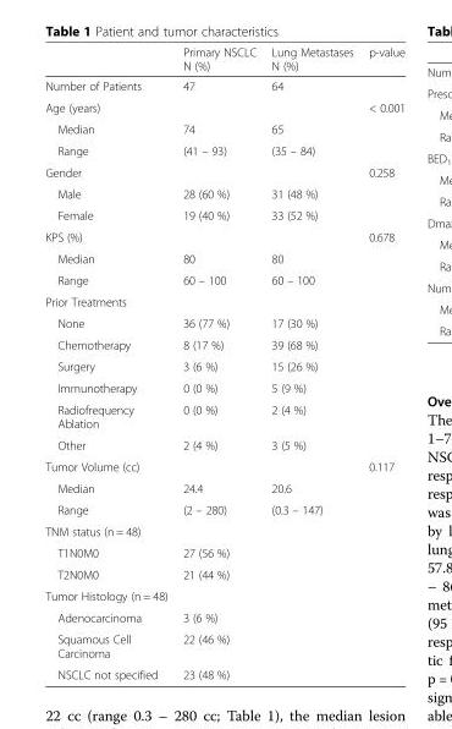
<table><thead><tr><td></td><td>Primary NSCLC N (%)</td><td>Lung Metastases N (%)</td><td>p-value</td></tr></thead><tbody><tr><td>Number of Patients</td><td>47</td><td>64</td><td></td></tr><tr><td>Age (years)</td><td></td><td></td><td>&lt; 0.001</td></tr><tr><td>Median</td><td>74</td><td>65</td><td></td></tr><tr><td>Range</td><td>(41 – 93)</td><td>(35 – 84)</td><td></td></tr><tr><td>Gender</td><td></td><td></td><td>0.258</td></tr><tr><td>Male</td><td>28 (60 %)</td><td>31 (48 %)</td><td></td></tr><tr><td>Female</td><td>19 (40 %)</td><td>33 (52 %)</td><td></td></tr><tr><td>KPS (%)</td><td></td><td></td><td>0.678</td></tr><tr><td>Median</td><td>80</td><td>80</td><td></td></tr><tr><td>Range</td><td>60 – 100</td><td>60 – 100</td><td></td></tr><tr><td colspan="4">Prior Treatments</td></tr><tr><td>None</td><td>36 (77 %)</td><td>17 (30 %)</td><td></td></tr><tr><td>Chemotherapy</td><td>8 (17 %)</td><td>39 (68 %)</td><td></td></tr><tr><td>Surgery</td><td>3 (6 %)</td><td>15 (26 %)</td><td></td></tr><tr><td>Immunotherapy</td><td>0 (0 %)</td><td>5 (9 %)</td><td></td></tr><tr><td>Radiofrequency Ablation</td><td>0 (0 %)</td><td>2 (4 %)</td><td></td></tr><tr><td>Other</td><td>2 (4 %)</td><td>3 (5 %)</td><td></td></tr><tr><td>Tumor Volume (cc)</td><td></td><td></td><td>0.117</td></tr><tr><td>Median</td><td>24.4</td><td>20.6</td><td></td></tr><tr><td>Range</td><td>(2 – 280)</td><td>(0.3 – 147)</td><td></td></tr><tr><td colspan="4">TNM status (n = 48)</td></tr><tr><td>T1N0M0</td><td>27 (56 %)</td><td></td><td></td></tr><tr><td>T2N0M0</td><td>21 (44 %)</td><td></td><td></td></tr><tr><td colspan="4">Tumor Histology (n = 48)</td></tr><tr><td>Adenocarcinoma</td><td>3 (6 %)</td><td></td><td></td></tr><tr><td>Squamous Cell Carcinoma</td><td>22 (46 %)</td><td></td><td></td></tr><tr><td>NSCLC not specified</td><td>23 (48 %)</td><td></td><td></td></tr></tbody></table>